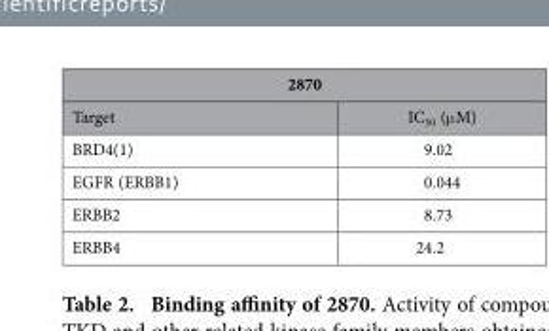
<table><thead><tr><td colspan="2">2870</td></tr><tr><td>Target</td><td>IC<sub>50</sub> (μ M)</td></tr></thead><tbody><tr><td>BRD4(1)</td><td>9.02</td></tr><tr><td>EGFR (ERBB1)</td><td>0.044</td></tr><tr><td>ERBB2</td><td>8.73</td></tr><tr><td>ERBB4</td><td>24.2</td></tr></tbody></table>